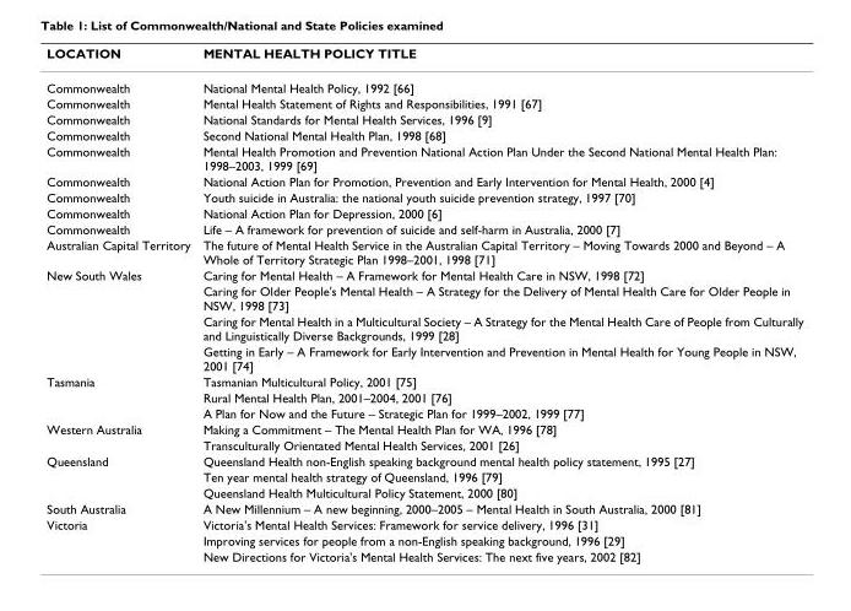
<table><thead><tr><td>LOCATION</td><td>MENTAL HEALTH POLICY TITLE</td></tr></thead><tbody><tr><td>Commonwealth</td><td>National Mental Health Policy, 1992 [66]</td></tr><tr><td>Commonwealth</td><td>Mental Health Statement of Rights and Responsibilities, 1991 [67]</td></tr><tr><td>Commonwealth</td><td>National Standards for Mental Health Services, 1996 [9]</td></tr><tr><td>Commonwealth</td><td>Second National Mental Health Plan, 1998 [68]</td></tr><tr><td>Commonwealth</td><td>Mental Health Promotion and Prevention National Action Plan Under the Second National Mental Health Plan: 1998–2003, 1999 [69]</td></tr><tr><td>Commonwealth</td><td>National Action Plan for Promotion, Prevention and Early Intervention for Mental Health, 2000 [4]</td></tr><tr><td>Commonwealth</td><td>Youth suicide in Australia: the national youth suicide prevention strategy, 1997 [70]</td></tr><tr><td>Commonwealth</td><td>National Action Plan for Depression, 2000 [6]</td></tr><tr><td>Commonwealth</td><td>Life – A framework for prevention of suicide and self-harm in Australia, 2000 [7]</td></tr><tr><td>Australian Capital Territory</td><td>The future of Mental Health Service in the Australian Capital Territory – Moving Towards 2000 and Beyond – A Whole of Territory Strategic Plan 1998–2001, 1998 [71]</td></tr><tr><td rowspan="4">New South Wales</td><td>Caring for Mental Health – A Framework for Mental Health Care in NSW, 1998 [72]</td></tr><tr><td>Caring for Older People&#x27;s Mental Health – A Strategy for the Delivery of Mental Health Care for Older People in NSW, 1998 [73]</td></tr><tr><td>Caring for Mental Health in a Multicultural Society – A Strategy for the Mental Health Care of People from Culturally and Linguistically Diverse Backgrounds, 1999 [28]</td></tr><tr><td>Getting in Early – A Framework for Early Intervention and Prevention in Mental Health for Young People in NSW, 2001 [74]</td></tr><tr><td rowspan="3">Tasmania</td><td>Tasmanian Multicultural Policy, 2001 [75]</td></tr><tr><td>Rural Mental Health Plan, 2001–2004, 2001 [76]</td></tr><tr><td>A Plan for Now and the Future – Strategic Plan for 1999–2002, 1999 [77]</td></tr><tr><td rowspan="2">Western Australia</td><td>Making a Commitment – The Mental Health Plan for WA, 1996 [78]</td></tr><tr><td>Transculturally Orientated Mental Health Services, 2001 [26]</td></tr><tr><td rowspan="3">Queensland</td><td>Queensland Health non-English speaking background mental health policy statement, 1995 [27]</td></tr><tr><td>Ten year mental health strategy of Queensland, 1996 [79]</td></tr><tr><td>Queensland Health Multicultural Policy Statement, 2000 [80]</td></tr><tr><td>South Australia</td><td>A New Millennium – A new beginning, 2000–2005 – Mental Health in South Australia, 2000 [81]</td></tr><tr><td rowspan="3">Victoria</td><td>Victoria&#x27;s Mental Health Services: Framework for service delivery, 1996 [31]</td></tr><tr><td>Improving services for people from a non-English speaking background, 1996 [29]</td></tr><tr><td>New Directions for Victoria&#x27;s Mental Health Services: The next five years, 2002 [82]</td></tr></tbody></table>